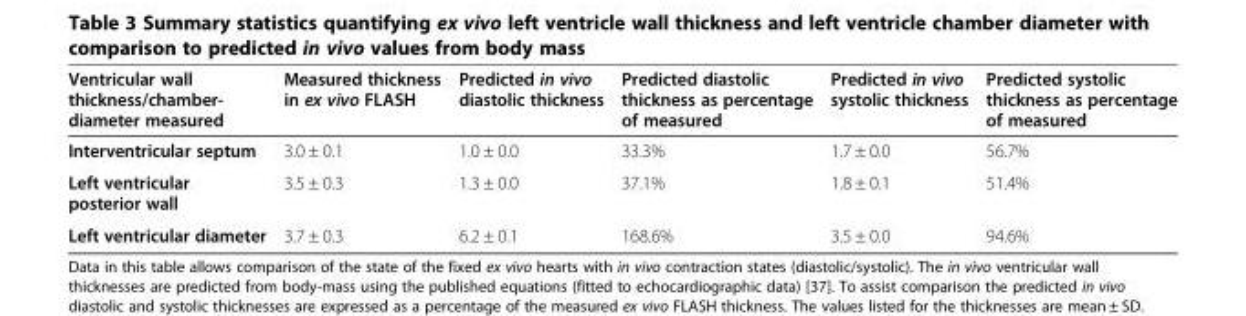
<table><thead><tr><td>Ventricular wall thickness/chamber- diameter measured</td><td>Measured thickness in ex vivo FLASH</td><td>Predicted in vivo diastolic thickness</td><td>Predicted diastolic thickness as percentage of measured</td><td>Predicted in vivo systolic thickness</td><td>Predicted systolic thickness as percentage of measured</td></tr></thead><tbody><tr><td>Interventricular septum</td><td>3.0 ± 0.1</td><td>1.0 ± 0.0</td><td>33.3%</td><td>1.7 ± 0.0</td><td>56.7%</td></tr><tr><td>Left ventricular posterior wall</td><td>3.5 ± 0.3</td><td>1.3 ± 0.0</td><td>37.1%</td><td>1.8 ± 0.1</td><td>51.4%</td></tr><tr><td>Left ventricular diameter</td><td>3.7 ± 0.3</td><td>6.2 ± 0.1</td><td>168.6%</td><td>3.5 ± 0.0</td><td>94.6%</td></tr></tbody></table>